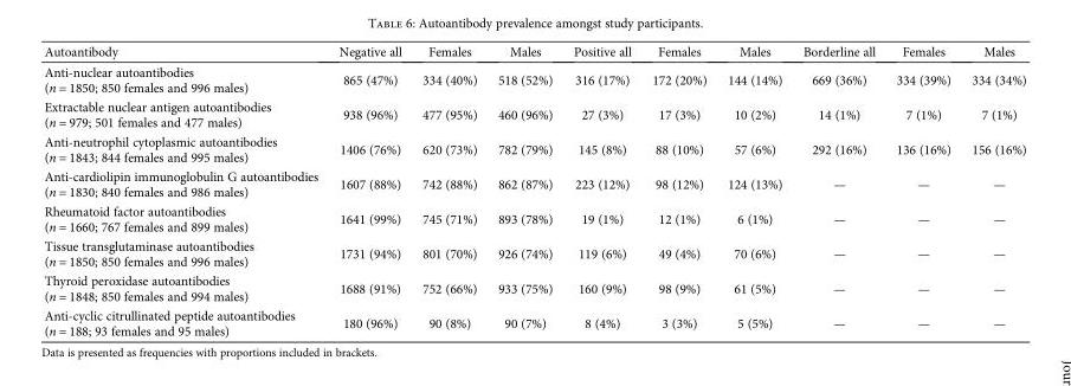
<table><thead><tr><td>Autoantibody</td><td>Negative all</td><td>Females</td><td>Males</td><td>Positive all</td><td>Females</td><td>Males</td><td>Borderline all</td><td>Females</td><td>Males</td></tr></thead><tbody><tr><td>Anti-nuclear autoantibodies (n = 1850; 850 females and 996 males)</td><td>865 (47%)</td><td>334 (40%)</td><td>518 (52%)</td><td>316 (17%)</td><td>172 (20%)</td><td>144 (14%)</td><td>669 (36%)</td><td>334 (39%)</td><td>334 (34%)</td></tr><tr><td>Extractable nuclear antigen autoantibodies (n = 979; 501 females and 477 males)</td><td>938 (96%)</td><td>477 (95%)</td><td>460 (96%)</td><td>27 (3%)</td><td>17 (3%)</td><td>10 (2%)</td><td>14 (1%)</td><td>7 (1%)</td><td>7 (1%)</td></tr><tr><td>Anti-neutrophil cytoplasmic autoantibodies (n = 1843; 844 females and 995 males)</td><td>1406 (76%)</td><td>620 (73%)</td><td>782 (79%)</td><td>145 (8%)</td><td>88 (10%)</td><td>57 (6%)</td><td>292 (16%)</td><td>136 (16%)</td><td>156 (16%)</td></tr><tr><td>Anti-cardiolipin immunoglobulin G autoantibodies (n = 1830; 840 females and 986 males)</td><td>1607 (88%)</td><td>742 (88%)</td><td>862 (87%)</td><td>223 (12%)</td><td>98 (12%)</td><td>124 (13%)</td><td>—</td><td>—</td><td>—</td></tr><tr><td>Rheumatoid factor autoantibodies (n = 1660; 767 females and 899 males)</td><td>1641 (99%)</td><td>745 (71%)</td><td>893 (78%)</td><td>19 (1%)</td><td>12 (1%)</td><td>6 (1%)</td><td>—</td><td>—</td><td>—</td></tr><tr><td>Tissue transglutaminase autoantibodies (n = 1850; 850 females and 996 males)</td><td>1731 (94%)</td><td>801 (70%)</td><td>926 (74%)</td><td>119 (6%)</td><td>49 (4%)</td><td>70 (6%)</td><td>—</td><td>—</td><td>—</td></tr><tr><td>Thyroid peroxidase autoantibodies (n = 1848; 850 females and 994 males)</td><td>1688 (91%)</td><td>752 (66%)</td><td>933 (75%)</td><td>160 (9%)</td><td>98 (9%)</td><td>61 (5%)</td><td>—</td><td>—</td><td>—</td></tr><tr><td>Anti-cyclic citrullinated peptide autoantibodies (n = 188; 93 females and 95 males)</td><td>180 (96%)</td><td>90 (8%)</td><td>90 (7%)</td><td>8 (4%)</td><td>3 (3%)</td><td>5 (5%)</td><td>—</td><td>—</td><td>—</td></tr></tbody></table>